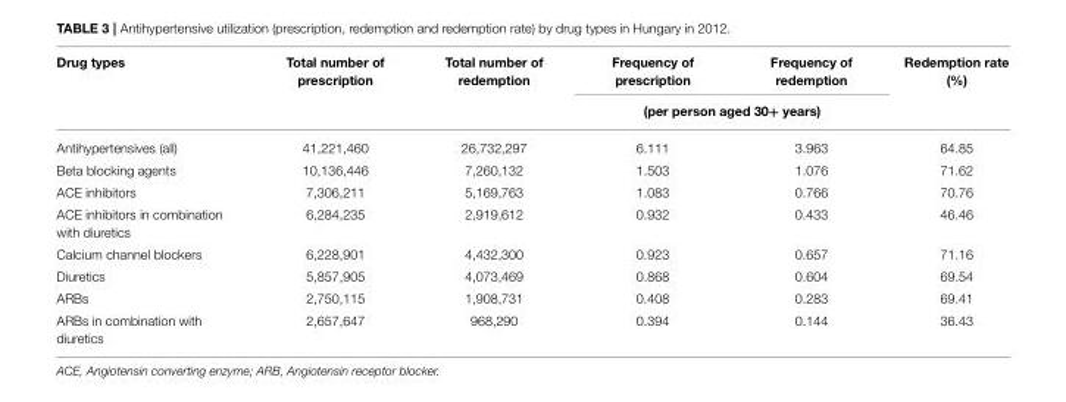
<table><thead><tr><td rowspan="2">Drug types</td><td rowspan="2">Total number of prescription</td><td rowspan="2">Total number of redemption</td><td>Frequency of prescription</td><td>Frequency of redemption</td><td rowspan="2">Redemption rate (%)</td></tr><tr><td colspan="2">(per person aged 30+ years)</td></tr></thead><tbody><tr><td>Antihypertensives (all)</td><td>41,221,460</td><td>26,732,297</td><td>6.111</td><td>3.963</td><td>64.85</td></tr><tr><td>Beta blocking agents</td><td>10,136,446</td><td>7,260,132</td><td>1.503</td><td>1.076</td><td>71.62</td></tr><tr><td>ACE inhibitors</td><td>7,306,211</td><td>5,169,763</td><td>1.083</td><td>0.766</td><td>70.76</td></tr><tr><td>ACE inhibitors in combination with diuretics</td><td>6,284,235</td><td>2,919,612</td><td>0.932</td><td>0.433</td><td>46.46</td></tr><tr><td>Calcium channel blockers</td><td>6,228,901</td><td>4,432,300</td><td>0.923</td><td>0.657</td><td>71.16</td></tr><tr><td>Diuretics</td><td>5,857,905</td><td>4,073,469</td><td>0.868</td><td>0.604</td><td>69.54</td></tr><tr><td>ARBs</td><td>2,750,115</td><td>1,908,731</td><td>0.408</td><td>0.283</td><td>69.41</td></tr><tr><td>ARBs in combination with diuretics</td><td>2,657,647</td><td>968,290</td><td>0.394</td><td>0.144</td><td>36.43</td></tr></tbody></table>